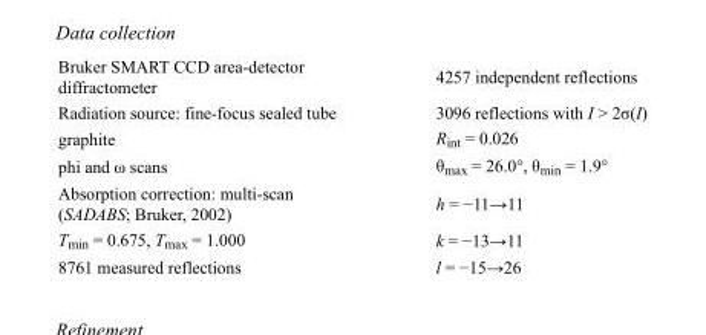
<table><tbody><tr><td>Bruker SMART CCD area-detector diffractometer</td><td>4257 independent reflections</td></tr><tr><td>Radiation source: fine-focus sealed tube</td><td>3096 reflections with I &gt; 2σ(I)</td></tr><tr><td>graphite</td><td>R<sub>int</sub> = 0.026</td></tr><tr><td>phi and ω scans</td><td>θ<sub>max</sub> = 26.0°, θ<sub>min</sub> = 1.9°</td></tr><tr><td>Absorption correction: multi-scan (SADABS; Bruker, 2002)</td><td>h = −11→11</td></tr><tr><td>T<sub>min</sub> = 0.675, T<sub>max</sub> = 1.000</td><td>k = −13→11</td></tr><tr><td>8761 measured reflections</td><td>l = −15→26</td></tr></tbody></table>